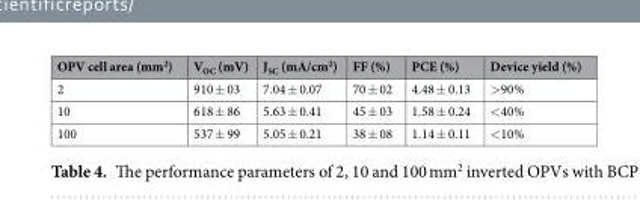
<table><thead><tr><td>OPV cell area (mm<sup>2</sup>)</td><td>V<sub>OC</sub> (mV)</td><td>J<sub>SC</sub> (mA/cm<sup>2</sup>)</td><td>FF (%)</td><td>PCE (%)</td><td>Device yield (%)</td></tr></thead><tbody><tr><td>2</td><td>910 ± 03</td><td>7.04 ± 0.07</td><td>70 ± 02</td><td>4.48 ± 0.13</td><td>&gt;90%</td></tr><tr><td>10</td><td>618 ± 86</td><td>5.63 ± 0.41</td><td>45 ± 03</td><td>1.58 ± 0.24</td><td>&lt;40%</td></tr><tr><td>100</td><td>537 ± 99</td><td>5.05 ± 0.21</td><td>38 ± 08</td><td>1.14 ± 0.11</td><td>&lt;10%</td></tr></tbody></table>